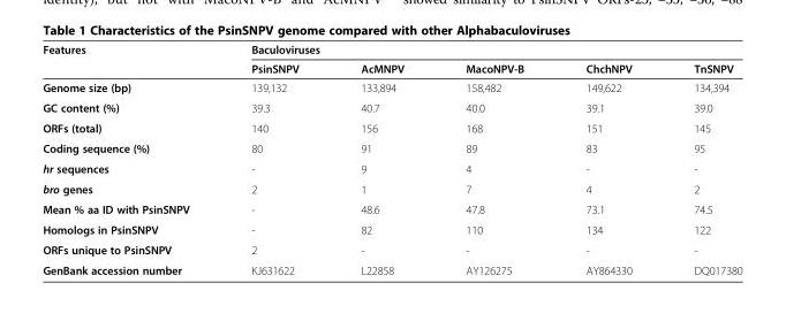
<table><thead><tr><td rowspan="2">Features</td><td colspan="5">Baculoviruses</td></tr><tr><td>PsinSNPV</td><td>AcMNPV</td><td>MacoNPV-B</td><td>ChchNPV</td><td>TnSNPV</td></tr></thead><tbody><tr><td>Genome size (bp)</td><td>139,132</td><td>133,894</td><td>158,482</td><td>149,622</td><td>134,394</td></tr><tr><td>GC content (%)</td><td>39.3</td><td>40.7</td><td>40.0</td><td>39.1</td><td>39.0</td></tr><tr><td>ORFs (total)</td><td>140</td><td>156</td><td>168</td><td>151</td><td>145</td></tr><tr><td>Coding sequence (%)</td><td>80</td><td>91</td><td>89</td><td>83</td><td>95</td></tr><tr><td>hr sequences</td><td>-</td><td>9</td><td>4</td><td>-</td><td>-</td></tr><tr><td>bro genes</td><td>2</td><td>1</td><td>7</td><td>4</td><td>2</td></tr><tr><td>Mean % aa ID with PsinSNPV</td><td>-</td><td>48.6</td><td>47.8</td><td>73.1</td><td>74.5</td></tr><tr><td>Homologs in PsinSNPV</td><td>-</td><td>82</td><td>110</td><td>134</td><td>122</td></tr><tr><td>ORFs unique to PsinSNPV</td><td>2</td><td>-</td><td>-</td><td>-</td><td>-</td></tr><tr><td>GenBank accession number</td><td>KJ631622</td><td>L22858</td><td>AY126275</td><td>AY864330</td><td>DQ017380</td></tr></tbody></table>